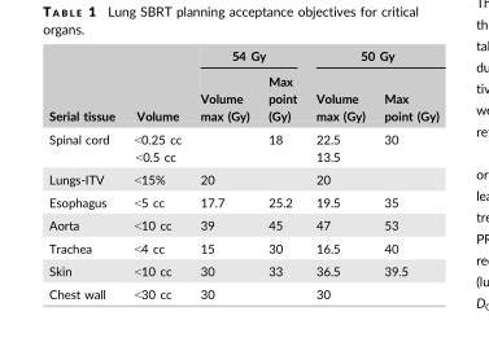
<table><thead><tr><td rowspan="2">Serial tissue</td><td rowspan="2">Volume</td><td colspan="2">54 Gy</td><td colspan="2">50 Gy</td></tr><tr><td>Volume max (Gy)</td><td>Max point (Gy)</td><td>Volume max (Gy)</td><td>Max point (Gy)</td></tr></thead><tbody><tr><td>Spinal cord</td><td>&lt;0.25 cc &lt;0.5 cc</td><td></td><td>18</td><td>22.5 13.5</td><td>30</td></tr><tr><td>Lungs-ITV</td><td>&lt;15%</td><td>20</td><td></td><td>20</td><td></td></tr><tr><td>Esophagus</td><td>&lt;5 cc</td><td>17.7</td><td>25.2</td><td>19.5</td><td>35</td></tr><tr><td>Aorta</td><td>&lt;10 cc</td><td>39</td><td>45</td><td>47</td><td>53</td></tr><tr><td>Trachea</td><td>&lt;4 cc</td><td>15</td><td>30</td><td>16.5</td><td>40</td></tr><tr><td>Skin</td><td>&lt;10 cc</td><td>30</td><td>33</td><td>36.5</td><td>39.5</td></tr><tr><td>Chest wall</td><td>&lt;30 cc</td><td>30</td><td></td><td>30</td><td></td></tr></tbody></table>